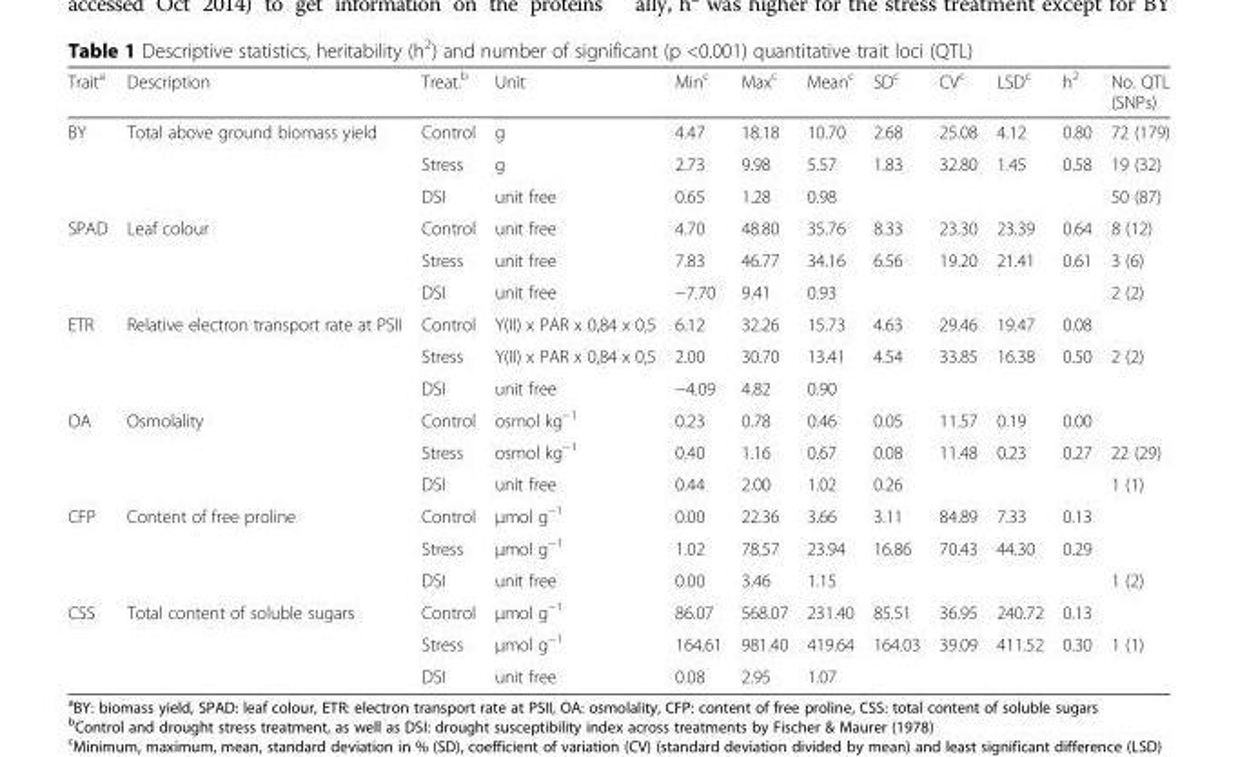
<table><thead><tr><td>Trait<sup>a</sup></td><td>Description</td><td>Treat.<sup>b</sup></td><td>Unit</td><td>Min<sup>c</sup></td><td>Max<sup>c</sup></td><td>Mean<sup>c</sup></td><td>SD<sup>c</sup></td><td>CV<sup>c</sup></td><td>LSD<sup>c</sup></td><td>h<sup>2</sup></td><td>No. QTL (SNPs)</td></tr></thead><tbody><tr><td rowspan="3">BY</td><td rowspan="3">Total above ground biomass yield</td><td>Control</td><td>g</td><td>4.47</td><td>18.18</td><td>10.70</td><td>2.68</td><td>25.08</td><td>4.12</td><td>0.80</td><td>72 (179)</td></tr><tr><td>Stress</td><td>g</td><td>2.73</td><td>9.98</td><td>5.57</td><td>1.83</td><td>32.80</td><td>1.45</td><td>0.58</td><td>19 (32)</td></tr><tr><td>DSI</td><td>unit free</td><td>0.65</td><td>1.28</td><td>0.98</td><td></td><td></td><td></td><td></td><td>50 (87)</td></tr><tr><td rowspan="3">SPAD</td><td rowspan="3">Leaf colour</td><td>Control</td><td>unit free</td><td>4.70</td><td>48.80</td><td>35.76</td><td>8.33</td><td>23.30</td><td>23.39</td><td>0.64</td><td>8 (12)</td></tr><tr><td>Stress</td><td>unit free</td><td>7.83</td><td>46.77</td><td>34.16</td><td>6.56</td><td>19.20</td><td>21.41</td><td>0.61</td><td>3 (6)</td></tr><tr><td>DSI</td><td>unit free</td><td>−7.70</td><td>9.41</td><td>0.93</td><td></td><td></td><td></td><td></td><td>2 (2)</td></tr><tr><td rowspan="3">ETR</td><td rowspan="3">Relative electron transport rate at PSII</td><td>Control</td><td>Y(II) x PAR x 0,84 x 0,5</td><td>6.12</td><td>32.26</td><td>15.73</td><td>4.63</td><td>29.46</td><td>19.47</td><td>0.08</td><td></td></tr><tr><td>Stress</td><td>Y(II) x PAR x 0,84 x 0,5</td><td>2.00</td><td>30.70</td><td>13.41</td><td>4.54</td><td>33.85</td><td>16.38</td><td>0.50</td><td>2 (2)</td></tr><tr><td>DSI</td><td>unit free</td><td>−4.09</td><td>4.82</td><td>0.90</td><td></td><td></td><td></td><td></td><td></td></tr><tr><td rowspan="3">OA</td><td rowspan="3">Osmolality</td><td>Control</td><td>osmol kg<sup>−1</sup></td><td>0.23</td><td>0.78</td><td>0.46</td><td>0.05</td><td>11.57</td><td>0.19</td><td>0.00</td><td></td></tr><tr><td>Stress</td><td>osmol kg<sup>−1</sup></td><td>0.40</td><td>1.16</td><td>0.67</td><td>0.08</td><td>11.48</td><td>0.23</td><td>0.27</td><td>22 (29)</td></tr><tr><td>DSI</td><td>unit free</td><td>0.44</td><td>2.00</td><td>1.02</td><td>0.26</td><td></td><td></td><td></td><td>1 (1)</td></tr><tr><td rowspan="3">CFP</td><td rowspan="3">Content of free proline</td><td>Control</td><td>μmol g<sup>−1</sup></td><td>0.00</td><td>22.36</td><td>3.66</td><td>3.11</td><td>84.89</td><td>7.33</td><td>0.13</td><td></td></tr><tr><td>Stress</td><td>μmol g<sup>−1</sup></td><td>1.02</td><td>78.57</td><td>23.94</td><td>16.86</td><td>70.43</td><td>44.30</td><td>0.29</td><td></td></tr><tr><td>DSI</td><td>unit free</td><td>0.00</td><td>3.46</td><td>1.15</td><td></td><td></td><td></td><td></td><td>1 (2)</td></tr><tr><td rowspan="3">CSS</td><td rowspan="3">Total content of soluble sugars</td><td>Control</td><td>μmol g<sup>−1</sup></td><td>86.07</td><td>568.07</td><td>231.40</td><td>85.51</td><td>36.95</td><td>240.72</td><td>0.13</td><td></td></tr><tr><td>Stress</td><td>μmol g<sup>−1</sup></td><td>164.61</td><td>981.40</td><td>419.64</td><td>164.03</td><td>39.09</td><td>411.52</td><td>0.30</td><td>1 (1)</td></tr><tr><td>DSI</td><td>unit free</td><td>0.08</td><td>2.95</td><td>1.07</td><td></td><td></td><td></td><td></td><td></td></tr></tbody></table>